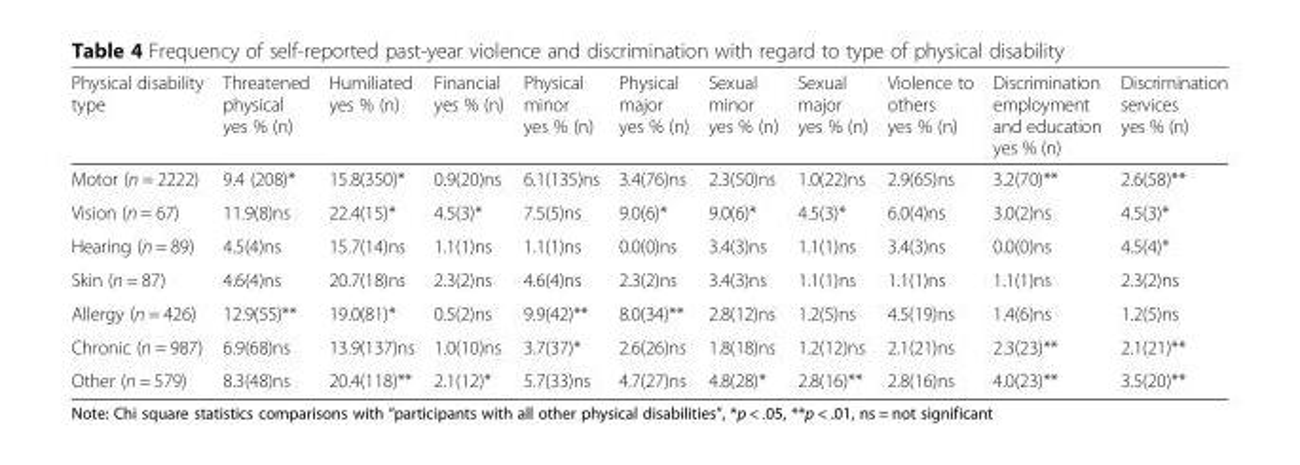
<table><thead><tr><td>Physical disability type</td><td>Threatened physical yes % (n)</td><td>Humiliated yes % (n)</td><td>Financial yes % (n)</td><td>Physical minor yes % (n)</td><td>Physical major yes % (n)</td><td>Sexual minor yes % (n)</td><td>Sexual major yes % (n)</td><td>Violence to others yes % (n)</td><td>Discrimination employment and education yes % (n)</td><td>Discrimination services yes % (n)</td></tr></thead><tbody><tr><td>Motor (n = 2222)</td><td>9.4 (208)*</td><td>15.8(350)*</td><td>0.9(20)ns</td><td>6.1(135)ns</td><td>3.4(76)ns</td><td>2.3(50)ns</td><td>1.0(22)ns</td><td>2.9(65)ns</td><td>3.2(70)**</td><td>2.6(58)**</td></tr><tr><td>Vision (n = 67)</td><td>11.9(8)ns</td><td>22.4(15)*</td><td>4.5(3)*</td><td>7.5(5)ns</td><td>9.0(6)*</td><td>9.0(6)*</td><td>4.5(3)*</td><td>6.0(4)ns</td><td>3.0(2)ns</td><td>4.5(3)*</td></tr><tr><td>Hearing (n = 89)</td><td>4.5(4)ns</td><td>15.7(14)ns</td><td>1.1(1)ns</td><td>1.1(1)ns</td><td>0.0(0)ns</td><td>3.4(3)ns</td><td>1.1(1)ns</td><td>3.4(3)ns</td><td>0.0(0)ns</td><td>4.5(4)*</td></tr><tr><td>Skin (n = 87)</td><td>4.6(4)ns</td><td>20.7(18)ns</td><td>2.3(2)ns</td><td>4.6(4)ns</td><td>2.3(2)ns</td><td>3.4(3)ns</td><td>1.1(1)ns</td><td>1.1(1)ns</td><td>1.1(1)ns</td><td>2.3(2)ns</td></tr><tr><td>Allergy (n = 426)</td><td>12.9(55)**</td><td>19.0(81)*</td><td>0.5(2)ns</td><td>9.9(42)**</td><td>8.0(34)**</td><td>2.8(12)ns</td><td>1.2(5)ns</td><td>4.5(19)ns</td><td>1.4(6)ns</td><td>1.2(5)ns</td></tr><tr><td>Chronic (n = 987)</td><td>6.9(68)ns</td><td>13.9(137)ns</td><td>1.0(10)ns</td><td>3.7(37)*</td><td>2.6(26)ns</td><td>1.8(18)ns</td><td>1.2(12)ns</td><td>2.1(21)ns</td><td>2.3(23)**</td><td>2.1(21)**</td></tr><tr><td>Other (n = 579)</td><td>8.3(48)ns</td><td>20.4(118)**</td><td>2.1(12)*</td><td>5.7(33)ns</td><td>4.7(27)ns</td><td>4.8(28)*</td><td>2.8(16)**</td><td>2.8(16)ns</td><td>4.0(23)**</td><td>3.5(20)**</td></tr></tbody></table>